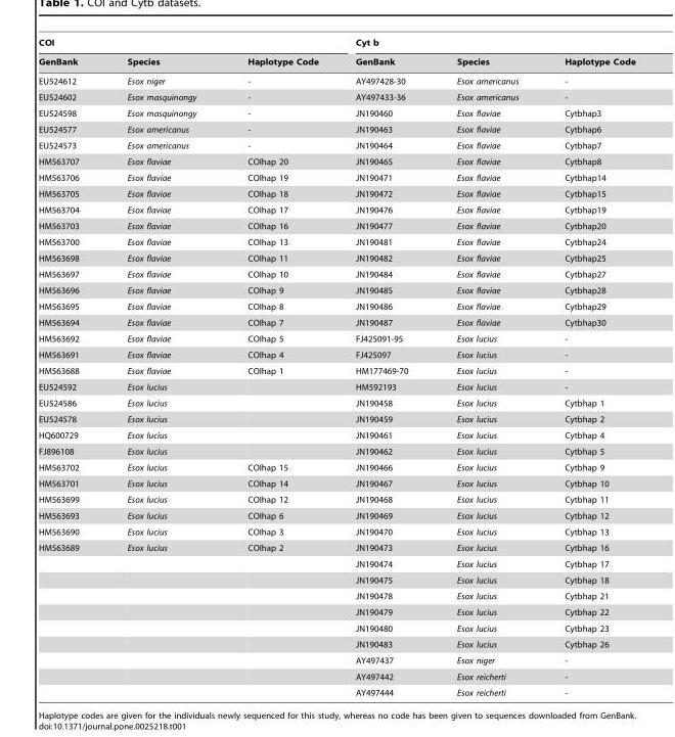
<table><thead><tr><td colspan="3">COI</td><td colspan="3">Cyt b</td></tr><tr><td>GenBank</td><td>Species</td><td>Haplotype Code</td><td>GenBank</td><td>Species</td><td>Haplotype Code</td></tr></thead><tbody><tr><td>EU524612</td><td>Esox niger</td><td>-</td><td>AY497428-30</td><td>Esox americanus</td><td>-</td></tr><tr><td>EU524602</td><td>Esox masquinongy</td><td>-</td><td>AY497433-36</td><td>Esox americanus</td><td>-</td></tr><tr><td>EU524598</td><td>Esox masquinongy</td><td>-</td><td>JN190460</td><td>Esox flaviae</td><td>Cytbhap3</td></tr><tr><td>EU524577</td><td>Esox americanus</td><td>-</td><td>JN190463</td><td>Esox flaviae</td><td>Cytbhap6</td></tr><tr><td>EU524573</td><td>Esox americanus</td><td>-</td><td>JN190464</td><td>Esox flaviae</td><td>Cytbhap7</td></tr><tr><td>HM563707</td><td>Esox flaviae</td><td>COIhap 20</td><td>JN190465</td><td>Esox flaviae</td><td>Cytbhap8</td></tr><tr><td>HM563706</td><td>Esox flaviae</td><td>COIhap 19</td><td>JN190471</td><td>Esox flaviae</td><td>Cytbhap14</td></tr><tr><td>HM563705</td><td>Esox flaviae</td><td>COIhap 18</td><td>JN190472</td><td>Esox flaviae</td><td>Cytbhap15</td></tr><tr><td>HM563704</td><td>Esox flaviae</td><td>COIhap 17</td><td>JN190476</td><td>Esox flaviae</td><td>Cytbhap19</td></tr><tr><td>HM563703</td><td>Esox flaviae</td><td>COIhap 16</td><td>JN190477</td><td>Esox flaviae</td><td>Cytbhap20</td></tr><tr><td>HM563700</td><td>Esox flaviae</td><td>COIhap 13</td><td>JN190481</td><td>Esox flaviae</td><td>Cytbhap24</td></tr><tr><td>HM563698</td><td>Esox flaviae</td><td>COIhap 11</td><td>JN190482</td><td>Esox flaviae</td><td>Cytbhap25</td></tr><tr><td>HM563697</td><td>Esox flaviae</td><td>COIhap 10</td><td>JN190484</td><td>Esox flaviae</td><td>Cytbhap27</td></tr><tr><td>HM563696</td><td>Esox flaviae</td><td>COIhap 9</td><td>JN190485</td><td>Esox flaviae</td><td>Cytbhap28</td></tr><tr><td>HM563695</td><td>Esox flaviae</td><td>COIhap 8</td><td>JN190486</td><td>Esox flaviae</td><td>Cytbhap29</td></tr><tr><td>HM563694</td><td>Esox flaviae</td><td>COIhap 7</td><td>JN190487</td><td>Esox flaviae</td><td>Cytbhap30</td></tr><tr><td>HM563692</td><td>Esox flaviae</td><td>COIhap 5</td><td>FJ425091-95</td><td>Esox lucius</td><td>-</td></tr><tr><td>HM563691</td><td>Esox flaviae</td><td>COIhap 4</td><td>FJ425097</td><td>Esox lucius</td><td>-</td></tr><tr><td>HM563688</td><td>Esox flaviae</td><td>COIhap 1</td><td>HM177469-70</td><td>Esox lucius</td><td>-</td></tr><tr><td>EU524592</td><td>Esox lucius</td><td></td><td>HM592193</td><td>Esox lucius</td><td>-</td></tr><tr><td>EU524586</td><td>Esox lucius</td><td></td><td>JN190458</td><td>Esox lucius</td><td>Cytbhap 1</td></tr><tr><td>EU524578</td><td>Esox lucius</td><td></td><td>JN190459</td><td>Esox lucius</td><td>Cytbhap 2</td></tr><tr><td>HQ600729</td><td>Esox lucius</td><td></td><td>JN190461</td><td>Esox lucius</td><td>Cytbhap 4</td></tr><tr><td>FJ896108</td><td>Esox lucius</td><td></td><td>JN190462</td><td>Esox lucius</td><td>Cytbhap 5</td></tr><tr><td>HM563702</td><td>Esox lucius</td><td>COIhap 15</td><td>JN190466</td><td>Esox lucius</td><td>Cytbhap 9</td></tr><tr><td>HM563701</td><td>Esox lucius</td><td>COIhap 14</td><td>JN190467</td><td>Esox lucius</td><td>Cytbhap 10</td></tr><tr><td>HM563699</td><td>Esox lucius</td><td>COIhap 12</td><td>JN190468</td><td>Esox lucius</td><td>Cytbhap 11</td></tr><tr><td>HM563693</td><td>Esox lucius</td><td>COIhap 6</td><td>JN190469</td><td>Esox lucius</td><td>Cytbhap 12</td></tr><tr><td>HM563690</td><td>Esox lucius</td><td>COIhap 3</td><td>JN190470</td><td>Esox lucius</td><td>Cytbhap 13</td></tr><tr><td rowspan="10">HM563689</td><td>Esox lucius</td><td>COIhap 2</td><td>JN190473</td><td>Esox lucius</td><td>Cytbhap 16</td></tr><tr><td></td><td></td><td>JN190474</td><td>Esox lucius</td><td>Cytbhap 17</td></tr><tr><td></td><td></td><td>JN190475</td><td>Esox lucius</td><td>Cytbhap 18</td></tr><tr><td></td><td></td><td>JN190478</td><td>Esox lucius</td><td>Cytbhap 21</td></tr><tr><td></td><td></td><td>JN190479</td><td>Esox lucius</td><td>Cytbhap 22</td></tr><tr><td></td><td></td><td>JN190480</td><td>Esox lucius</td><td>Cytbhap 23</td></tr><tr><td></td><td></td><td>JN190483</td><td>Esox lucius</td><td>Cytbhap 26</td></tr><tr><td></td><td></td><td>AY497437</td><td>Esox niger</td><td>-</td></tr><tr><td></td><td></td><td>AY497442</td><td>Esox reicherti</td><td>-</td></tr><tr><td></td><td></td><td>AY497444</td><td>Esox reicherti</td><td>-</td></tr></tbody></table>